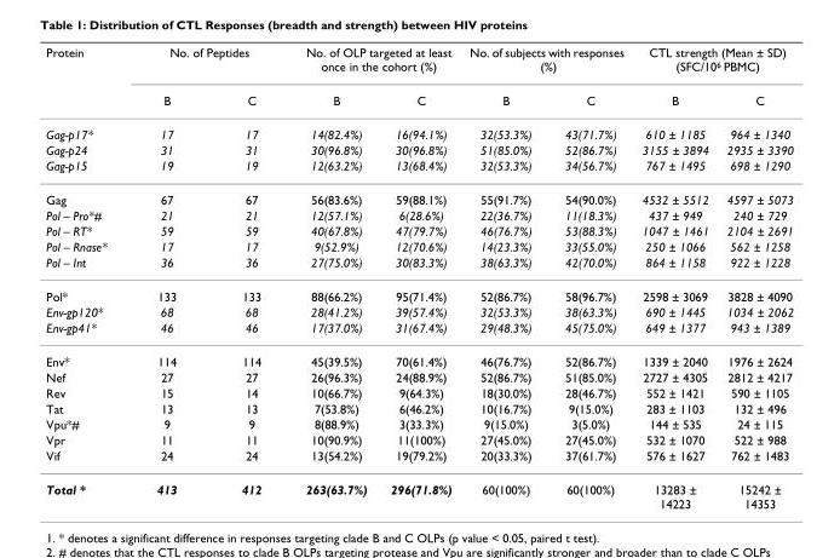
<table><thead><tr><td rowspan="2">Protein</td><td colspan="2">No. of Peptides</td><td colspan="2">No. of OLP targeted at least once in the cohort (%)</td><td colspan="2">No. of subjects with responses (%)</td><td colspan="2">CTL strength (Mean ± SD) (SFC/10<sup>6</sup> PBMC)</td></tr><tr><td>B</td><td>C</td><td>B</td><td>C</td><td>B</td><td>C</td><td>B</td><td>C</td></tr></thead><tbody><tr><td>Gag-p17*</td><td>17</td><td>17</td><td>14(82.4%)</td><td>16(94.1%)</td><td>32(53.3%)</td><td>43(71.7%)</td><td>610 ± 1185</td><td>964 ± 1340</td></tr><tr><td>Gag-p24</td><td>31</td><td>31</td><td>30(96.8%)</td><td>30(96.8%)</td><td>51(85.0%)</td><td>52(86.7%)</td><td>3155 ± 3894</td><td>2935 ± 3390</td></tr><tr><td>Gag-p15</td><td>19</td><td>19</td><td>12(63.2%)</td><td>13(68.4%)</td><td>32(53.3%)</td><td>34(56.7%)</td><td>767 ± 1495</td><td>698 ± 1290</td></tr><tr><td>Gag</td><td>67</td><td>67</td><td>56(83.6%)</td><td>59(88.1%)</td><td>55(91.7%)</td><td>54(90.0%)</td><td>4532 ± 5512</td><td>4597 ± 5073</td></tr><tr><td>Pol – Pro*#</td><td>21</td><td>21</td><td>12(57.1%)</td><td>6(28.6%)</td><td>22(36.7%)</td><td>11(18.3%)</td><td>437 ± 949</td><td>240 ± 729</td></tr><tr><td>Pol – RT*</td><td>59</td><td>59</td><td>40(67.8%)</td><td>47(79.7%)</td><td>46(76.7%)</td><td>53(88.3%)</td><td>1047 ± 1461</td><td>2104 ± 2691</td></tr><tr><td>Pol – Rnase*</td><td>17</td><td>17</td><td>9(52.9%)</td><td>12(70.6%)</td><td>14(23.3%)</td><td>33(55.0%)</td><td>250 ± 1066</td><td>562 ± 1258</td></tr><tr><td>Pol – Int</td><td>36</td><td>36</td><td>27(75.0%)</td><td>30(83.3%)</td><td>38(63.3%)</td><td>42(70.0%)</td><td>864 ± 1158</td><td>922 ± 1228</td></tr><tr><td>Pol*</td><td>133</td><td>133</td><td>88(66.2%)</td><td>95(71.4%)</td><td>52(86.7%)</td><td>58(96.7%)</td><td>2598 ± 3069</td><td>3828 ± 4090</td></tr><tr><td>Env-gp120*</td><td>68</td><td>68</td><td>28(41.2%)</td><td>39(57.4%)</td><td>32(53.3%)</td><td>38(63.3%)</td><td>690 ± 1445</td><td>1034 ± 2062</td></tr><tr><td>Env-gp41*</td><td>46</td><td>46</td><td>17(37.0%)</td><td>31(67.4%)</td><td>29(48.3%)</td><td>45(75.0%)</td><td>649 ± 1377</td><td>943 ± 1389</td></tr><tr><td>Env*</td><td>114</td><td>114</td><td>45(39.5%)</td><td>70(61.4%)</td><td>46(76.7%)</td><td>52(86.7%)</td><td>1339 ± 2040</td><td>1976 ± 2624</td></tr><tr><td>Nef</td><td>27</td><td>27</td><td>26(96.3%)</td><td>24(88.9%)</td><td>52(86.7%)</td><td>51(85.0%)</td><td>2727 ± 4305</td><td>2812 ± 4217</td></tr><tr><td>Rev</td><td>15</td><td>14</td><td>10(66.7%)</td><td>9(64.3%)</td><td>18(30.0%)</td><td>28(46.7%)</td><td>552 ± 1421</td><td>590 ± 1105</td></tr><tr><td>Tat</td><td>13</td><td>13</td><td>7(53.8%)</td><td>6(46.2%)</td><td>10(16.7%)</td><td>9(15.0%)</td><td>283 ± 1103</td><td>132 ± 496</td></tr><tr><td>Vpu*#</td><td>9</td><td>9</td><td>8(88.9%)</td><td>3(33.3%)</td><td>9(15.0%)</td><td>3(5.0%)</td><td>144 ± 535</td><td>24 ± 115</td></tr><tr><td>Vpr</td><td>11</td><td>11</td><td>10(90.9%)</td><td>11(100%)</td><td>27(45.0%)</td><td>27(45.0%)</td><td>532 ± 1070</td><td>522 ± 988</td></tr><tr><td>Vif</td><td>24</td><td>24</td><td>13(54.2%)</td><td>19(79.2%)</td><td>20(33.3%)</td><td>37(61.7%)</td><td>576 ± 1627</td><td>762 ± 1483</td></tr><tr><td>Total *</td><td>413</td><td>412</td><td>263(63.7%)</td><td>296(71.8%)</td><td>60(100%)</td><td>60(100%)</td><td>13283 ± 14223</td><td>15242 ± 14353</td></tr></tbody></table>